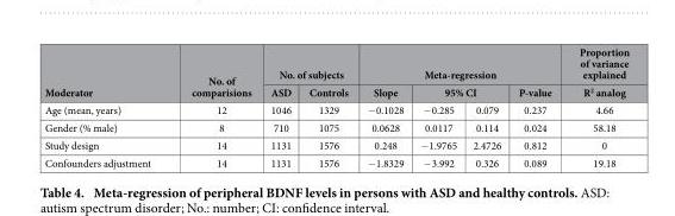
<table><thead><tr><td rowspan="3">Moderator Age (mean, years)</td><td rowspan="3">No. of comparisions 12</td><td colspan="2">No. of subjects</td><td colspan="4">Meta-regression</td><td rowspan="3">Proportion of variance explained R<sup>2</sup> analog 4.66</td></tr><tr><td rowspan="2">ASD 1046</td><td rowspan="2">Controls 1329</td><td rowspan="2">Slope − 0.1028</td><td colspan="2">95% CI</td><td rowspan="2">P-value 0.237</td></tr><tr><td>− 0.285</td><td>0.079</td></tr></thead><tbody><tr><td>Gender (% male)</td><td>8</td><td>710</td><td>1075</td><td>0.0628</td><td>0.0117</td><td>0.114</td><td>0.024</td><td>58.18</td></tr><tr><td>Study design</td><td>14</td><td>1131</td><td>1576</td><td>0.248</td><td>− 1.9765</td><td>2.4726</td><td>0.812</td><td>0</td></tr><tr><td>Confounders adjustment</td><td>14</td><td>1131</td><td>1576</td><td>− 1.8329</td><td>− 3.992</td><td>0.326</td><td>0.089</td><td>19.18</td></tr></tbody></table>